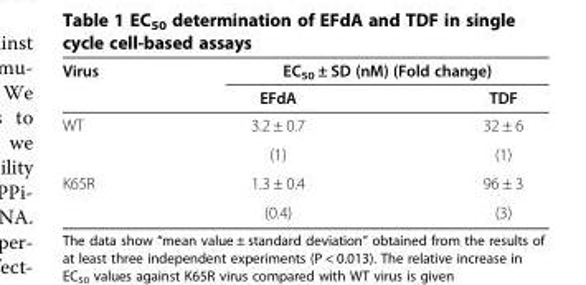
<table><thead><tr><td rowspan="2">Virus</td><td colspan="2">EC<sub>50</sub> ± SD (nM) (Fold change)</td></tr><tr><td>EFdA</td><td>TDF</td></tr></thead><tbody><tr><td rowspan="2">WT</td><td>3.2 ± 0.7</td><td>32 ± 6</td></tr><tr><td>(1)</td><td>(1)</td></tr><tr><td rowspan="2">K65R</td><td>1.3 ± 0.4</td><td>96 ± 3</td></tr><tr><td>(0.4)</td><td>(3)</td></tr></tbody></table>